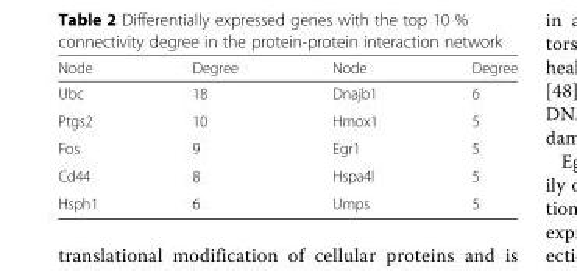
<table><thead><tr><td>Node</td><td>Degree</td><td>Node</td><td>Degree</td></tr></thead><tbody><tr><td>Ubc</td><td>18</td><td>Dnajb1</td><td>6</td></tr><tr><td>Ptgs2</td><td>10</td><td>Hmox1</td><td>5</td></tr><tr><td>Fos</td><td>9</td><td>Egr1</td><td>5</td></tr><tr><td>Cd44</td><td>8</td><td>Hspa4l</td><td>5</td></tr><tr><td>Hsph1</td><td>6</td><td>Umps</td><td>5</td></tr></tbody></table>